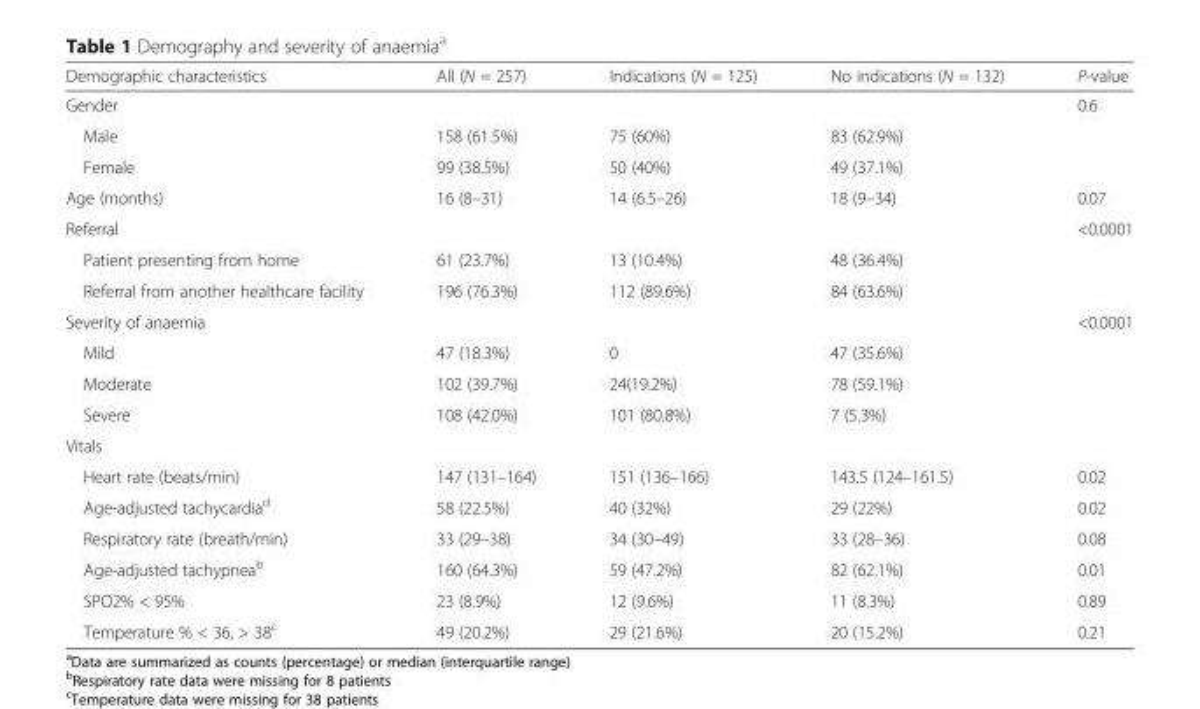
<table><thead><tr><td>Demographic characteristics</td><td>All (N = 257)</td><td>Indications (N = 125)</td><td>No indications (N = 132)</td><td>P-value</td></tr></thead><tbody><tr><td>Gender</td><td></td><td></td><td></td><td>0.6</td></tr><tr><td>Male</td><td>158 (61.5%)</td><td>75 (60%)</td><td>83 (62.9%)</td><td></td></tr><tr><td>Female</td><td>99 (38.5%)</td><td>50 (40%)</td><td>49 (37.1%)</td><td></td></tr><tr><td>Age (months)</td><td>16 (8–31)</td><td>14 (6.5–26)</td><td>18 (9–34)</td><td>0.07</td></tr><tr><td>Referral</td><td></td><td></td><td></td><td>&lt;0.0001</td></tr><tr><td>Patient presenting from home</td><td>61 (23.7%)</td><td>13 (10.4%)</td><td>48 (36.4%)</td><td></td></tr><tr><td>Referral from another healthcare facility</td><td>196 (76.3%)</td><td>112 (89.6%)</td><td>84 (63.6%)</td><td></td></tr><tr><td>Severity of anaemia</td><td></td><td></td><td></td><td>&lt;0.0001</td></tr><tr><td>Mild</td><td>47 (18.3%)</td><td>0</td><td>47 (35.6%)</td><td></td></tr><tr><td>Moderate</td><td>102 (39.7%)</td><td>24(19.2%)</td><td>78 (59.1%)</td><td></td></tr><tr><td>Severe</td><td>108 (42.0%)</td><td>101 (80.8%)</td><td>7 (5.3%)</td><td></td></tr><tr><td colspan="5">Vitals</td></tr><tr><td>Heart rate (beats/min)</td><td>147 (131–164)</td><td>151 (136–166)</td><td>143.5 (124–161.5)</td><td>0.02</td></tr><tr><td>Age-adjusted tachycardia<sup>d</sup></td><td>58 (22.5%)</td><td>40 (32%)</td><td>29 (22%)</td><td>0.02</td></tr><tr><td>Respiratory rate (breath/min)</td><td>33 (29–38)</td><td>34 (30–49)</td><td>33 (28–36)</td><td>0.08</td></tr><tr><td>Age-adjusted tachypnea<sup>b</sup></td><td>160 (64.3%)</td><td>59 (47.2%)</td><td>82 (62.1%)</td><td>0.01</td></tr><tr><td>SPO2% &lt; 95%</td><td>23 (8.9%)</td><td>12 (9.6%)</td><td>11 (8.3%)</td><td>0.89</td></tr><tr><td>Temperature % &lt; 36, &gt; 38<sup>c</sup></td><td>49 (20.2%)</td><td>29 (21.6%)</td><td>20 (15.2%)</td><td>0.21</td></tr></tbody></table>